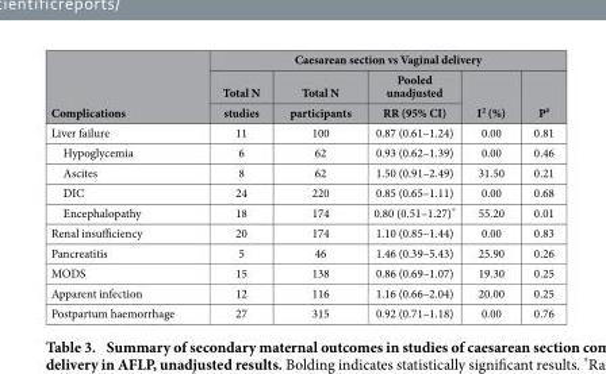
<table><thead><tr><td rowspan="3">Complications</td><td colspan="5">Caesarean section vs Vaginal delivery</td></tr><tr><td rowspan="2">Total N studies</td><td rowspan="2">Total N participants</td><td rowspan="2">Pooled unadjusted RR (95% CI)</td><td rowspan="2">I<sup>2</sup> (%)</td><td rowspan="2">P#</td></tr><tr></tr></thead><tbody><tr><td>Liver failure</td><td>11</td><td>100</td><td>0.87 (0.61–1.24)</td><td>0.00</td><td>0.81</td></tr><tr><td>Hypoglycemia</td><td>6</td><td>62</td><td>0.93 (0.62–1.39)</td><td>0.00</td><td>0.46</td></tr><tr><td>Ascites</td><td>8</td><td>62</td><td>1.50 (0.91–2.49)</td><td>31.50</td><td>0.21</td></tr><tr><td>DIC</td><td>24</td><td>220</td><td>0.85 (0.65–1.11)</td><td>0.00</td><td>0.68</td></tr><tr><td>Encephalopathy</td><td>18</td><td>174</td><td>0.80 (0.51–1.27)*</td><td>55.20</td><td>0.01</td></tr><tr><td>Renal insufficiency</td><td>20</td><td>174</td><td>1.10 (0.85–1.44)</td><td>0.00</td><td>0.83</td></tr><tr><td>Pancreatitis</td><td>5</td><td>46</td><td>1.46 (0.39–5.43)</td><td>25.90</td><td>0.26</td></tr><tr><td>MODS</td><td>15</td><td>138</td><td>0.86 (0.69–1.07)</td><td>19.30</td><td>0.25</td></tr><tr><td>Apparent infection</td><td>12</td><td>116</td><td>1.16 (0.66–2.04)</td><td>20.00</td><td>0.25</td></tr><tr><td>Postpartum haemorrhage</td><td>27</td><td>315</td><td>0.92 (0.71–1.18)</td><td>0.00</td><td>0.76</td></tr></tbody></table>